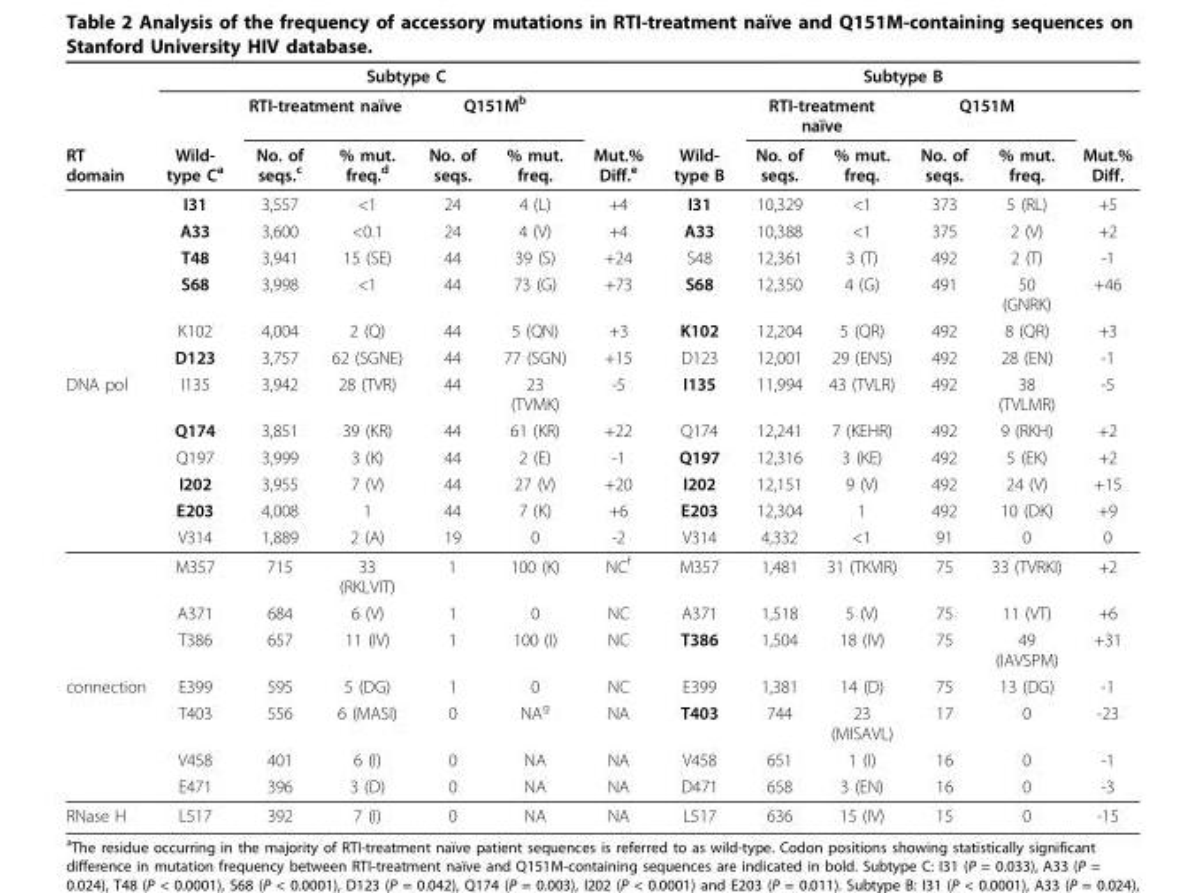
<table><thead><tr><td rowspan="3">RT domain</td><td colspan="6">Subtype C</td><td colspan="6">Subtype B</td></tr><tr><td rowspan="2">Wild- type C<sup>a</sup></td><td colspan="2">RTI-treatment naïve</td><td colspan="2">Q151M<sup>b</sup></td><td rowspan="2">Mut.% Diff.<sup>e</sup></td><td rowspan="2">Wild- type B</td><td colspan="2">RTI-treatment naïve</td><td colspan="2">Q151M</td><td rowspan="2">Mut.% Diff.</td></tr><tr><td>No. of seqs.<sup>c</sup></td><td>% mut. freq.<sup>d</sup></td><td>No. of seqs.</td><td>% mut. freq.</td><td>No. of seqs.</td><td>% mut. freq.</td><td>No. of seqs.</td><td>% mut. freq.</td></tr></thead><tbody><tr><td></td><td>I31</td><td>3,557</td><td>&lt;1</td><td>24</td><td>4 (L)</td><td>+4</td><td>I31</td><td>10,329</td><td>&lt;1</td><td>373</td><td>5 (RL)</td><td>+5</td></tr><tr><td></td><td>A33</td><td>3,600</td><td>&lt;0.1</td><td>24</td><td>4 (V)</td><td>+4</td><td>A33</td><td>10,388</td><td>&lt;1</td><td>375</td><td>2 (V)</td><td>+2</td></tr><tr><td></td><td>T48</td><td>3,941</td><td>15 (SE)</td><td>44</td><td>39 (S)</td><td>+24</td><td>S48</td><td>12,361</td><td>3 (T)</td><td>492</td><td>2 (T)</td><td>-1</td></tr><tr><td></td><td>S68</td><td>3,998</td><td>&lt;1</td><td>44</td><td>73 (G)</td><td>+73</td><td>S68</td><td>12,350</td><td>4 (G)</td><td>491</td><td>50 (GNRK)</td><td>+46</td></tr><tr><td></td><td>K102</td><td>4,004</td><td>2 (Q)</td><td>44</td><td>5 (QN)</td><td>+3</td><td>K102</td><td>12,204</td><td>5 (QR)</td><td>492</td><td>8 (QR)</td><td>+3</td></tr><tr><td></td><td>D123</td><td>3,757</td><td>62 (SGNE)</td><td>44</td><td>77 (SGN)</td><td>+15</td><td>D123</td><td>12,001</td><td>29 (ENS)</td><td>492</td><td>28 (EN)</td><td>-1</td></tr><tr><td rowspan="9">DNA pol</td><td>I135</td><td>3,942</td><td>28 (TVR)</td><td>44</td><td>23 (TVMK)</td><td>-5</td><td>I135</td><td>11,994</td><td>43 (TVLR)</td><td>492</td><td>38 (TVLMR)</td><td>-5</td></tr><tr><td>Q174</td><td>3,851</td><td>39 (KR)</td><td>44</td><td>61 (KR)</td><td>+22</td><td>Q174</td><td>12,241</td><td>7 (KEHR)</td><td>492</td><td>9 (RKH)</td><td>+2</td></tr><tr><td>Q197</td><td>3,999</td><td>3 (K)</td><td>44</td><td>2 (E)</td><td>-1</td><td>Q197</td><td>12,316</td><td>3 (KE)</td><td>492</td><td>5 (EK)</td><td>+2</td></tr><tr><td>I202</td><td>3,955</td><td>7 (V)</td><td>44</td><td>27 (V)</td><td>+20</td><td>I202</td><td>12,151</td><td>9 (V)</td><td>492</td><td>24 (V)</td><td>+15</td></tr><tr><td>E203</td><td>4,008</td><td>1</td><td>44</td><td>7 (K)</td><td>+6</td><td>E203</td><td>12,304</td><td>1</td><td>492</td><td>10 (DK)</td><td>+9</td></tr><tr><td>V314</td><td>1,889</td><td>2 (A)</td><td>19</td><td>0</td><td>-2</td><td>V314</td><td>4,332</td><td>&lt;1</td><td>91</td><td>0</td><td>0</td></tr><tr><td>M357</td><td>715</td><td>33 (RKLVIT)</td><td>1</td><td>100 (K)</td><td>NC<sup>f</sup></td><td>M357</td><td>1,481</td><td>31 (TKVIR)</td><td>75</td><td>33 (TVRKI)</td><td>+2</td></tr><tr><td>A371</td><td>684</td><td>6 (V)</td><td>1</td><td>0</td><td>NC</td><td>A371</td><td>1,518</td><td>5 (V)</td><td>75</td><td>11 (VT)</td><td>+6</td></tr><tr><td>T386</td><td>657</td><td>11 (IV)</td><td>1</td><td>100 (I)</td><td>NC</td><td>T386</td><td>1,504</td><td>18 (IV)</td><td>75</td><td>49 (IAVSPM)</td><td>+31</td></tr><tr><td rowspan="4">connection</td><td>E399</td><td>595</td><td>5 (DG)</td><td>1</td><td>0</td><td>NC</td><td>E399</td><td>1,381</td><td>14 (D)</td><td>75</td><td>13 (DG)</td><td>-1</td></tr><tr><td>T403</td><td>556</td><td>6 (MASI)</td><td>0</td><td>NA<sup>g</sup></td><td>NA</td><td>T403</td><td>744</td><td>23 (MISAVL)</td><td>17</td><td>0</td><td>-23</td></tr><tr><td>V458</td><td>401</td><td>6 (I)</td><td>0</td><td>NA</td><td>NA</td><td>V458</td><td>651</td><td>1 (I)</td><td>16</td><td>0</td><td>-1</td></tr><tr><td>E471</td><td>396</td><td>3 (D)</td><td>0</td><td>NA</td><td>NA</td><td>D471</td><td>658</td><td>3 (EN)</td><td>16</td><td>0</td><td>-3</td></tr><tr><td>RNase H</td><td>L517</td><td>392</td><td>7 (I)</td><td>0</td><td>NA</td><td>NA</td><td>L517</td><td>636</td><td>15 (IV)</td><td>15</td><td>0</td><td>-15</td></tr></tbody></table>